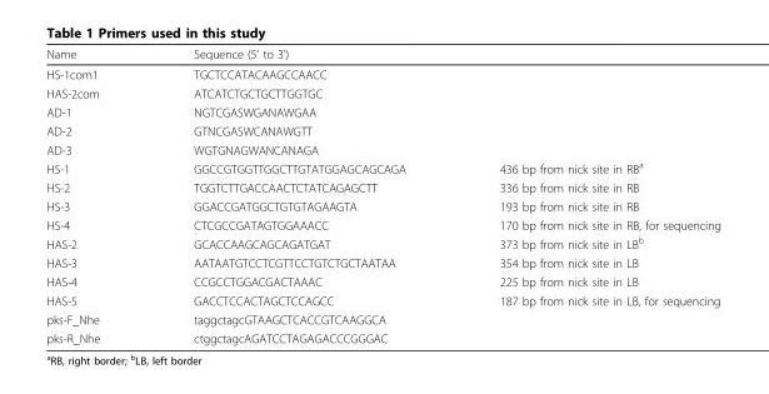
<table><thead><tr><td>Name</td><td>Sequence (5’ to 3’)</td><td></td></tr></thead><tbody><tr><td>HS-1com1</td><td>TGCTCCATACAAGCCAACC</td><td></td></tr><tr><td>HAS-2com</td><td>ATCATCTGCTGCTTGGTGC</td><td></td></tr><tr><td>AD-1</td><td>NGTCGASWGANAWGAA</td><td></td></tr><tr><td>AD-2</td><td>GTNCGASWCANAWGTT</td><td></td></tr><tr><td>AD-3</td><td>WGTGNAGWANCANAGA</td><td></td></tr><tr><td>HS-1</td><td>GGCCGTGGTTGGCTTGTATGGAGCAGCAGA</td><td>436 bp from nick site in RB<sup>a</sup></td></tr><tr><td>HS-2</td><td>TGGTCTTGACCAACTCTATCAGAGCTT</td><td>336 bp from nick site in RB</td></tr><tr><td>HS-3</td><td>GGACCGATGGCTGTGTAGAAGTA</td><td>193 bp from nick site in RB</td></tr><tr><td>HS-4</td><td>CTCGCCGATAGTGGAAACC</td><td>170 bp from nick site in RB, for sequencing</td></tr><tr><td>HAS-2</td><td>GCACCAAGCAGCAGATGAT</td><td>373 bp from nick site in LB<sup>b</sup></td></tr><tr><td>HAS-3</td><td>AATAATGTCCTCGTTCCTGTCTGCTAATAA</td><td>354 bp from nick site in LB</td></tr><tr><td>HAS-4</td><td>CCGCCTGGACGACTAAAC</td><td>225 bp from nick site in LB</td></tr><tr><td>HAS-5</td><td>GACCTCCACTAGCTCCAGCC</td><td>187 bp from nick site in LB, for sequencing</td></tr><tr><td>pks-F_Nhe</td><td>taggctagcGTAAGCTCACCGTCAAGGCA</td><td></td></tr><tr><td>pks-R_Nhe</td><td>ctggctagcAGATCCTAGAGACCCGGGAC</td><td></td></tr></tbody></table>